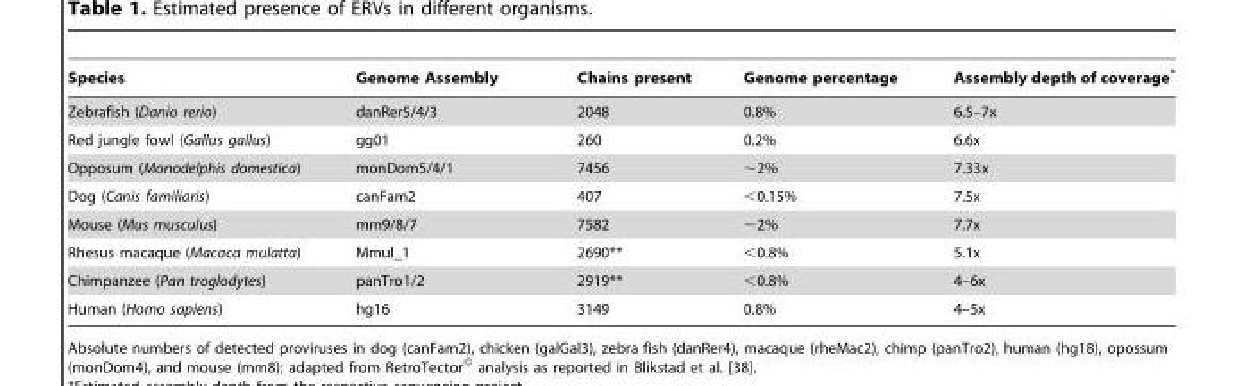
<table><thead><tr><td>Species</td><td>Genome Assembly</td><td>Chains present</td><td>Genome percentage</td><td>Assembly depth of coverage*</td></tr></thead><tbody><tr><td>Zebrafish (Danio rerio)</td><td>danRer5/4/3</td><td>2048</td><td>0.8%</td><td>6.5–7x</td></tr><tr><td>Red jungle fowl (Gallus gallus)</td><td>gg01</td><td>260</td><td>0.2%</td><td>6.6x</td></tr><tr><td>Opposum (Monodelphis domestica)</td><td>monDom5/4/1</td><td>7456</td><td>∼2%</td><td>7.33x</td></tr><tr><td>Dog (Canis familiaris)</td><td>canFam2</td><td>407</td><td>&lt;0.15%</td><td>7.5x</td></tr><tr><td>Mouse (Mus musculus)</td><td>mm9/8/7</td><td>7582</td><td>∼2%</td><td>7.7x</td></tr><tr><td>Rhesus macaque (Macaca mulatta)</td><td>Mmul_1</td><td>2690**</td><td>&lt;0.8%</td><td>5.1x</td></tr><tr><td>Chimpanzee (Pan troglodytes)</td><td>panTro1/2</td><td>2919**</td><td>&lt;0.8%</td><td>4–6x</td></tr><tr><td>Human (Homo sapiens)</td><td>hg16</td><td>3149</td><td>0.8%</td><td>4–5x</td></tr></tbody></table>